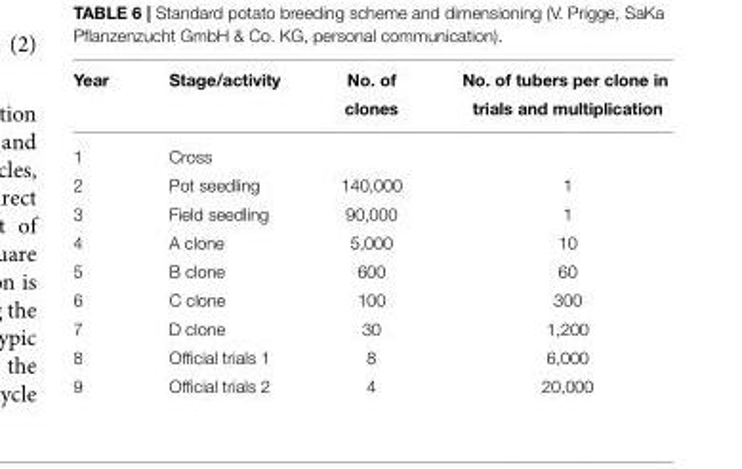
<table><thead><tr><td>Year</td><td>Stage/activity</td><td>No. of clones</td><td>No. of tubers per clone in trials and multiplication</td></tr></thead><tbody><tr><td>1</td><td>Cross</td><td></td><td></td></tr><tr><td>2</td><td>Pot seedling</td><td>140,000</td><td>1</td></tr><tr><td>3</td><td>Field seedling</td><td>90,000</td><td>1</td></tr><tr><td>4</td><td>A clone</td><td>5,000</td><td>10</td></tr><tr><td>5</td><td>B clone</td><td>600</td><td>60</td></tr><tr><td>6</td><td>C clone</td><td>100</td><td>300</td></tr><tr><td>7</td><td>D clone</td><td>30</td><td>1,200</td></tr><tr><td>8</td><td>Official trials 1</td><td>8</td><td>6,000</td></tr><tr><td>9</td><td>Official trials 2</td><td>4</td><td>20,000</td></tr></tbody></table>